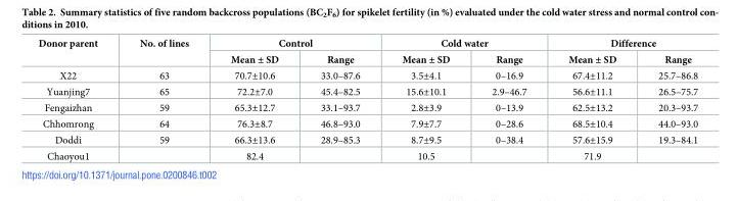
<table><thead><tr><td rowspan="2">Donor parent</td><td rowspan="2">No. of lines</td><td colspan="2">Control</td><td colspan="2">Cold water</td><td colspan="2">Difference</td></tr><tr><td>Mean ± SD</td><td>Range</td><td>Mean ± SD</td><td>Range</td><td>Mean ± SD</td><td>Range</td></tr></thead><tbody><tr><td>X22</td><td>63</td><td>70.7±10.6</td><td>33.0–87.6</td><td>3.5±4.1</td><td>0–16.9</td><td>67.4±11.2</td><td>25.7–86.8</td></tr><tr><td>Yuanjing7</td><td>65</td><td>72.2±7.0</td><td>45.4–82.5</td><td>15.6±10.1</td><td>2.9–46.7</td><td>56.6±11.1</td><td>26.5–75.7</td></tr><tr><td>Fengaizhan</td><td>59</td><td>65.3±12.7</td><td>33.1–93.7</td><td>2.8±3.9</td><td>0–13.9</td><td>62.5±13.2</td><td>20.3–93.7</td></tr><tr><td>Chhomrong</td><td>64</td><td>76.3±8.7</td><td>46.8–93.0</td><td>7.9±7.7</td><td>0–28.6</td><td>68.5±10.4</td><td>44.0–93.0</td></tr><tr><td>Doddi</td><td>59</td><td>66.3±13.6</td><td>28.9–85.3</td><td>8.7±9.5</td><td>0–38.4</td><td>57.6±15.9</td><td>19.3–84.1</td></tr><tr><td>Chaoyou1</td><td></td><td>82.4</td><td></td><td>10.5</td><td></td><td>71.9</td><td></td></tr></tbody></table>